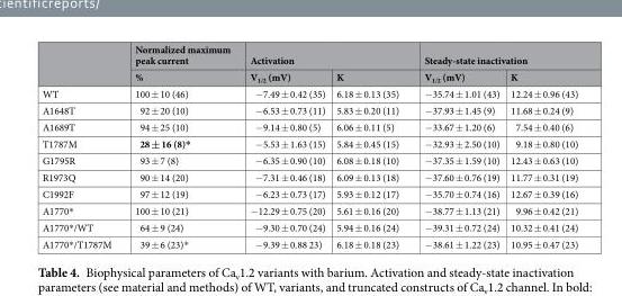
<table><thead><tr><td rowspan="2"></td><td rowspan="2">Normalized maximum peak current %</td><td colspan="2">Activation</td><td colspan="2">Steady-state inactivation</td></tr><tr><td>V<sub>1/2</sub> (mV)</td><td>K</td><td>V<sub>1/2</sub> (mV)</td><td>K</td></tr></thead><tbody><tr><td>WT</td><td>100 ± 10 (46)</td><td>−7.49 ± 0.42 (35)</td><td>6.18 ± 0.13 (35)</td><td>−35.74 ± 1.01 (43)</td><td>12.24 ± 0.96 (43)</td></tr><tr><td>A1648T</td><td>92 ± 20 (10)</td><td>−6.53 ± 0.73 (11)</td><td>5.83 ± 0.20 (11)</td><td>−37.93 ± 1.45 (9)</td><td>11.68 ± 0.24 (9)</td></tr><tr><td>A1689T</td><td>94 ± 25 (10)</td><td>−9.14 ± 0.80 (5)</td><td>6.06 ± 0.11 (5)</td><td>−33.67 ± 1.20 (6)</td><td>7.54 ± 0.40 (6)</td></tr><tr><td>T1787M</td><td>28 ± 16 (8)*</td><td>−5.53 ± 1.63 (15)</td><td>5.84 ± 0.45 (15)</td><td>−32.93 ± 2.50 (10)</td><td>9.18 ± 0.80 (10)</td></tr><tr><td>G1795R</td><td>93 ± 7 (8)</td><td>−6.35 ± 0.90 (10)</td><td>6.08 ± 0.18 (10)</td><td>−37.35 ± 1.59 (10)</td><td>12.43 ± 0.63 (10)</td></tr><tr><td>R1973Q</td><td>90 ± 14 (20)</td><td>−7.31 ± 0.46 (18)</td><td>6.09 ± 0.13 (18)</td><td>−37.60 ± 0.76 (19)</td><td>11.77 ± 0.31 (19)</td></tr><tr><td>C1992F</td><td>97 ± 12 (19)</td><td>−6.23 ± 0.73 (17)</td><td>5.93 ± 0.12 (17)</td><td>−35.70 ± 0.74 (16)</td><td>12.67 ± 0.39 (16)</td></tr><tr><td>A1770*</td><td>100 ± 10 (21)</td><td>−12.29 ± 0.75 (20)</td><td>5.61 ± 0.16 (20)</td><td>−38.77 ± 1.13 (21)</td><td>9.96 ± 0.42 (21)</td></tr><tr><td>A1770*/WT</td><td>64 ± 9 (24)</td><td>−9.30 ± 0.70 (24)</td><td>5.94 ± 0.16 (24)</td><td>−39.31 ± 0.72 (24)</td><td>10.32 ± 0.41 (24)</td></tr><tr><td>A1770*/T1787M</td><td>39 ± 6 (23)*</td><td>−9.39 ± 0.88 23)</td><td>6.18 ± 0.18 (23)</td><td>−38.61 ± 1.22 (23)</td><td>10.95 ± 0.47 (23)</td></tr></tbody></table>